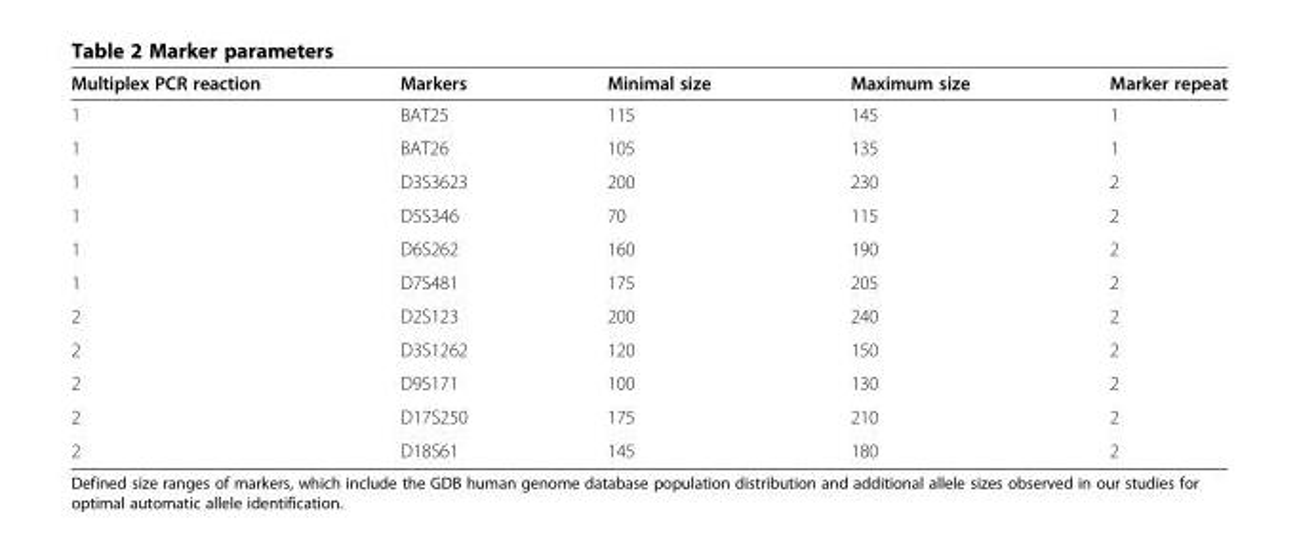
<table><thead><tr><td>Multiplex PCR reaction</td><td>Markers</td><td>Minimal size</td><td>Maximum size</td><td>Marker repeat</td></tr></thead><tbody><tr><td>1</td><td>BAT25</td><td>115</td><td>145</td><td>1</td></tr><tr><td>1</td><td>BAT26</td><td>105</td><td>135</td><td>1</td></tr><tr><td>1</td><td>D3S3623</td><td>200</td><td>230</td><td>2</td></tr><tr><td>1</td><td>D5S346</td><td>70</td><td>115</td><td>2</td></tr><tr><td>1</td><td>D6S262</td><td>160</td><td>190</td><td>2</td></tr><tr><td>1</td><td>D7S481</td><td>175</td><td>205</td><td>2</td></tr><tr><td>2</td><td>D2S123</td><td>200</td><td>240</td><td>2</td></tr><tr><td>2</td><td>D3S1262</td><td>120</td><td>150</td><td>2</td></tr><tr><td>2</td><td>D9S171</td><td>100</td><td>130</td><td>2</td></tr><tr><td>2</td><td>D17S250</td><td>175</td><td>210</td><td>2</td></tr><tr><td>2</td><td>D18S61</td><td>145</td><td>180</td><td>2</td></tr></tbody></table>